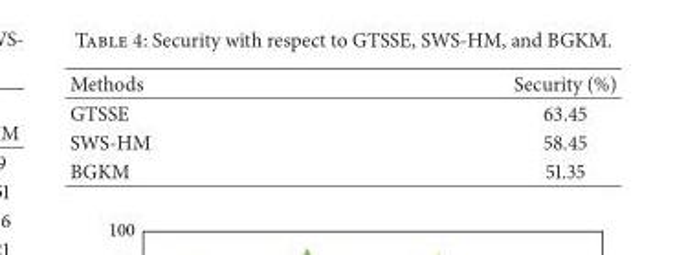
<table><thead><tr><td>Methods</td><td>Security (%)</td></tr></thead><tbody><tr><td>GTSSE</td><td>63.45</td></tr><tr><td>SWS-HM</td><td>58.45</td></tr><tr><td>BGKM</td><td>51.35</td></tr></tbody></table>